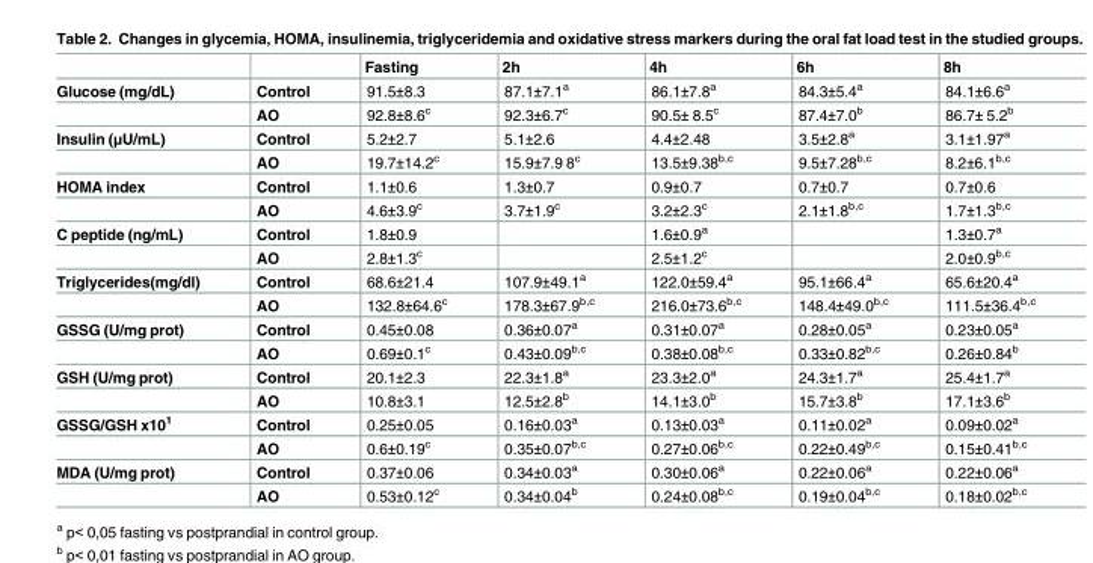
<table><thead><tr><td></td><td></td><td>Fasting</td><td>2h</td><td>4h</td><td>6h</td><td>8h</td></tr></thead><tbody><tr><td rowspan="2">Glucose (mg/dL)</td><td>Control</td><td>91.5±8.3</td><td>87.1±7.1<sup>a</sup></td><td>86.1±7.8<sup>a</sup></td><td>84.3±5.4<sup>a</sup></td><td>84.1±6.6<sup>a</sup></td></tr><tr><td>AO</td><td>92.8±8.6<sup>c</sup></td><td>92.3±6.7<sup>c</sup></td><td>90.5± 8.5<sup>c</sup></td><td>87.4±7.0<sup>b</sup></td><td>86.7± 5.2<sup>b</sup></td></tr><tr><td rowspan="2">Insulin (μU/mL)</td><td>Control</td><td>5.2±2.7</td><td>5.1±2.6</td><td>4.4±2.48</td><td>3.5±2.8<sup>a</sup></td><td>3.1±1.97<sup>a</sup></td></tr><tr><td>AO</td><td>19.7±14.2<sup>c</sup></td><td>15.9±7.9 8<sup>c</sup></td><td>13.5±9.38<sup>b,c</sup></td><td>9.5±7.28<sup>b,c</sup></td><td>8.2±6.1<sup>b,c</sup></td></tr><tr><td rowspan="2">HOMA index</td><td>Control</td><td>1.1±0.6</td><td>1.3±0.7</td><td>0.9±0.7</td><td>0.7±0.7</td><td>0.7±0.6</td></tr><tr><td>AO</td><td>4.6±3.9<sup>c</sup></td><td>3.7±1.9<sup>c</sup></td><td>3.2±2.3<sup>c</sup></td><td>2.1±1.8<sup>b,c</sup></td><td>1.7±1.3<sup>b,c</sup></td></tr><tr><td rowspan="2">C peptide (ng/mL)</td><td>Control</td><td>1.8±0.9</td><td></td><td>1.6±0.9<sup>a</sup></td><td></td><td>1.3±0.7<sup>a</sup></td></tr><tr><td>AO</td><td>2.8±1.3<sup>c</sup></td><td></td><td>2.5±1.2<sup>c</sup></td><td></td><td>2.0±0.9<sup>b,c</sup></td></tr><tr><td rowspan="2">Triglycerides(mg/dl)</td><td>Control</td><td>68.6±21.4</td><td>107.9±49.1<sup>a</sup></td><td>122.0±59.4<sup>a</sup></td><td>95.1±66.4<sup>a</sup></td><td>65.6±20.4<sup>a</sup></td></tr><tr><td>AO</td><td>132.8±64.6<sup>c</sup></td><td>178.3±67.9<sup>b,c</sup></td><td>216.0±73.6<sup>b,c</sup></td><td>148.4±49.0<sup>b,c</sup></td><td>111.5±36.4<sup>b,c</sup></td></tr><tr><td rowspan="2">GSSG (U/mg prot)</td><td>Control</td><td>0.45±0.08</td><td>0.36±0.07<sup>a</sup></td><td>0.31±0.07<sup>a</sup></td><td>0.28±0.05<sup>a</sup></td><td>0.23±0.05<sup>a</sup></td></tr><tr><td>AO</td><td>0.69±0.1<sup>c</sup></td><td>0.43±0.09<sup>b,c</sup></td><td>0.38±0.08<sup>b,c</sup></td><td>0.33±0.82<sup>b,c</sup></td><td>0.26±0.84<sup>b</sup></td></tr><tr><td rowspan="2">GSH (U/mg prot)</td><td>Control</td><td>20.1±2.3</td><td>22.3±1.8<sup>a</sup></td><td>23.3±2.0<sup>a</sup></td><td>24.3±1.7<sup>a</sup></td><td>25.4±1.7<sup>a</sup></td></tr><tr><td>AO</td><td>10.8±3.1</td><td>12.5±2.8<sup>b</sup></td><td>14.1±3.0<sup>b</sup></td><td>15.7±3.8<sup>b</sup></td><td>17.1±3.6<sup>b</sup></td></tr><tr><td rowspan="2">GSSG/GSH x10<sup>1</sup></td><td>Control</td><td>0.25±0.05</td><td>0.16±0.03<sup>a</sup></td><td>0.13±0.03<sup>a</sup></td><td>0.11±0.02<sup>a</sup></td><td>0.09±0.02<sup>a</sup></td></tr><tr><td>AO</td><td>0.6±0.19<sup>c</sup></td><td>0.35±0.07<sup>b,c</sup></td><td>0.27±0.06<sup>b,c</sup></td><td>0.22±0.49<sup>b,c</sup></td><td>0.15±0.41<sup>b,c</sup></td></tr><tr><td rowspan="2">MDA (U/mg prot)</td><td>Control</td><td>0.37±0.06</td><td>0.34±0.03<sup>a</sup></td><td>0.30±0.06<sup>a</sup></td><td>0.22±0.06<sup>a</sup></td><td>0.22±0.06<sup>a</sup></td></tr><tr><td>AO</td><td>0.53±0.12<sup>c</sup></td><td>0.34±0.04<sup>b</sup></td><td>0.24±0.08<sup>b,c</sup></td><td>0.19±0.04<sup>b,c</sup></td><td>0.18±0.02<sup>b,c</sup></td></tr></tbody></table>